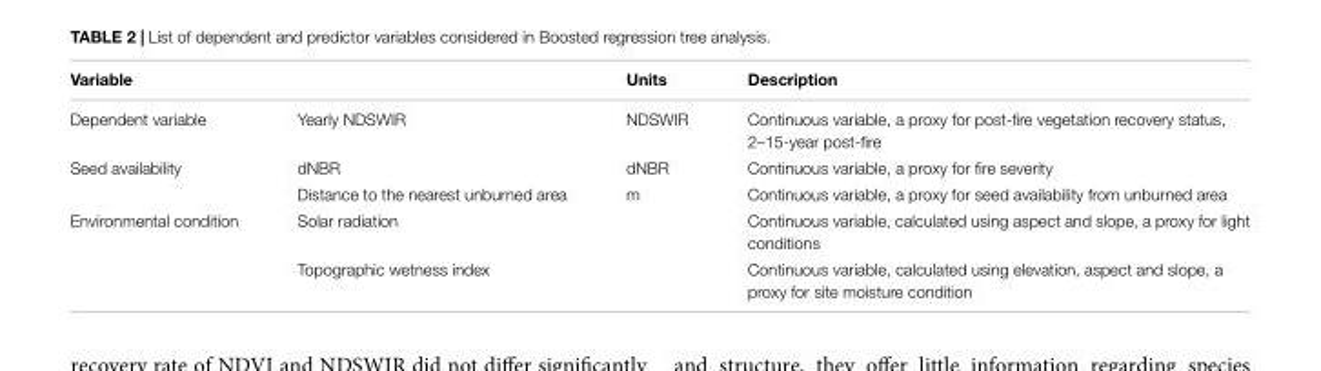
<table><thead><tr><td>Variable</td><td></td><td>Units</td><td>Description</td></tr></thead><tbody><tr><td>Dependent variable</td><td>Yearly NDSWIR</td><td>NDSWIR</td><td>Continuous variable, a proxy for post-fire vegetation recovery status, 2–15-year post-fire</td></tr><tr><td rowspan="2">Seed availability</td><td>dNBR</td><td>dNBR</td><td>Continuous variable, a proxy for fire severity</td></tr><tr><td>Distance to the nearest unburned area</td><td>m</td><td>Continuous variable, a proxy for seed availability from unburned area</td></tr><tr><td rowspan="2">Environmental condition</td><td>Solar radiation</td><td></td><td>Continuous variable, calculated using aspect and slope, a proxy for light conditions</td></tr><tr><td>Topographic wetness index</td><td></td><td>Continuous variable, calculated using elevation, aspect and slope, a proxy for site moisture condition</td></tr></tbody></table>